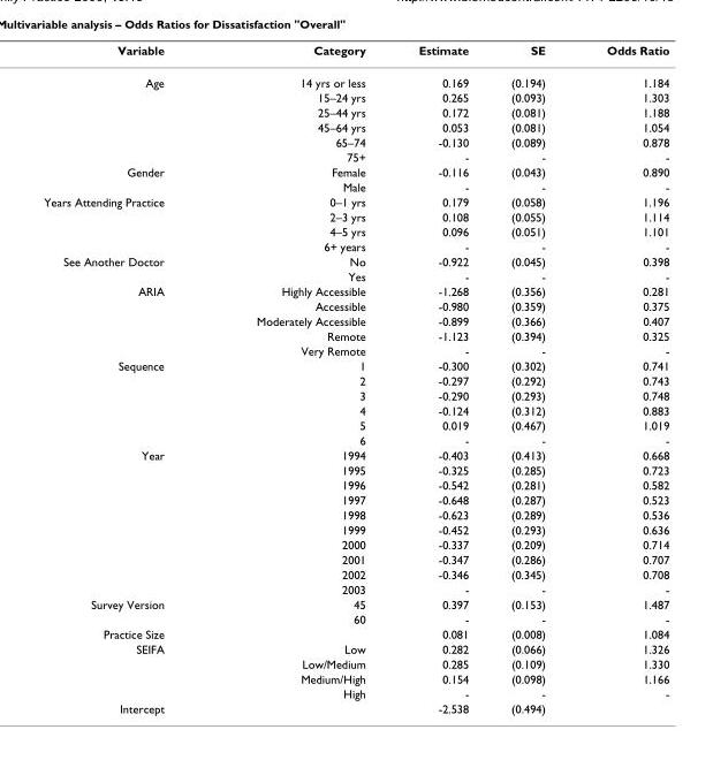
<table><thead><tr><td>Variable</td><td>Category</td><td>Estimate</td><td>SE</td><td>Odds Ratio</td></tr></thead><tbody><tr><td rowspan="6">Age</td><td>14 yrs or less</td><td>0.169</td><td>(0.194)</td><td>1.184</td></tr><tr><td>15–24 yrs</td><td>0.265</td><td>(0.093)</td><td>1.303</td></tr><tr><td>25–44 yrs</td><td>0.172</td><td>(0.081)</td><td>1.188</td></tr><tr><td>45–64 yrs</td><td>0.053</td><td>(0.081)</td><td>1.054</td></tr><tr><td>65–74</td><td>-0.130</td><td>(0.089)</td><td>0.878</td></tr><tr><td>75+</td><td>-</td><td>-</td><td>-</td></tr><tr><td rowspan="2">Gender</td><td>Female</td><td>-0.116</td><td>(0.043)</td><td>0.890</td></tr><tr><td>Male</td><td>-</td><td>-</td><td>-</td></tr><tr><td rowspan="4">Years Attending Practice</td><td>0–1 yrs</td><td>0.179</td><td>(0.058)</td><td>1.196</td></tr><tr><td>2–3 yrs</td><td>0.108</td><td>(0.055)</td><td>1.114</td></tr><tr><td>4–5 yrs</td><td>0.096</td><td>(0.051)</td><td>1.101</td></tr><tr><td>6+ years</td><td>-</td><td>-</td><td>-</td></tr><tr><td rowspan="2">See Another Doctor</td><td>No</td><td>-0.922</td><td>(0.045)</td><td>0.398</td></tr><tr><td>Yes</td><td>-</td><td>-</td><td>-</td></tr><tr><td rowspan="5">ARIA</td><td>Highly Accessible</td><td>-1.268</td><td>(0.356)</td><td>0.281</td></tr><tr><td>Accessible</td><td>-0.980</td><td>(0.359)</td><td>0.375</td></tr><tr><td>Moderately Accessible</td><td>-0.899</td><td>(0.366)</td><td>0.407</td></tr><tr><td>Remote</td><td>-1.123</td><td>(0.394)</td><td>0.325</td></tr><tr><td>Very Remote</td><td>-</td><td>-</td><td>-</td></tr><tr><td rowspan="6">Sequence</td><td>1</td><td>-0.300</td><td>(0.302)</td><td>0.741</td></tr><tr><td>2</td><td>-0.297</td><td>(0.292)</td><td>0.743</td></tr><tr><td>3</td><td>-0.290</td><td>(0.293)</td><td>0.748</td></tr><tr><td>4</td><td>-0.124</td><td>(0.312)</td><td>0.883</td></tr><tr><td>5</td><td>0.019</td><td>(0.467)</td><td>1.019</td></tr><tr><td>6</td><td>-</td><td>-</td><td>-</td></tr><tr><td rowspan="10">Year</td><td>1994</td><td>-0.403</td><td>(0.413)</td><td>0.668</td></tr><tr><td>1995</td><td>-0.325</td><td>(0.285)</td><td>0.723</td></tr><tr><td>1996</td><td>-0.542</td><td>(0.281)</td><td>0.582</td></tr><tr><td>1997</td><td>-0.648</td><td>(0.287)</td><td>0.523</td></tr><tr><td>1998</td><td>-0.623</td><td>(0.289)</td><td>0.536</td></tr><tr><td>1999</td><td>-0.452</td><td>(0.293)</td><td>0.636</td></tr><tr><td>2000</td><td>-0.337</td><td>(0.209)</td><td>0.714</td></tr><tr><td>2001</td><td>-0.347</td><td>(0.286)</td><td>0.707</td></tr><tr><td>2002</td><td>-0.346</td><td>(0.345)</td><td>0.708</td></tr><tr><td>2003</td><td>-</td><td>-</td><td>-</td></tr><tr><td rowspan="2">Survey Version</td><td>45</td><td>0.397</td><td>(0.153)</td><td>1.487</td></tr><tr><td>60</td><td>-</td><td>-</td><td>-</td></tr><tr><td>Practice Size</td><td></td><td>0.081</td><td>(0.008)</td><td>1.084</td></tr><tr><td rowspan="4">SEIFA</td><td>Low</td><td>0.282</td><td>(0.066)</td><td>1.326</td></tr><tr><td>Low/Medium</td><td>0.285</td><td>(0.109)</td><td>1.330</td></tr><tr><td>Medium/High</td><td>0.154</td><td>(0.098)</td><td>1.166</td></tr><tr><td>High</td><td>-</td><td>-</td><td>-</td></tr><tr><td>Intercept</td><td></td><td>-2.538</td><td>(0.494)</td><td></td></tr></tbody></table>